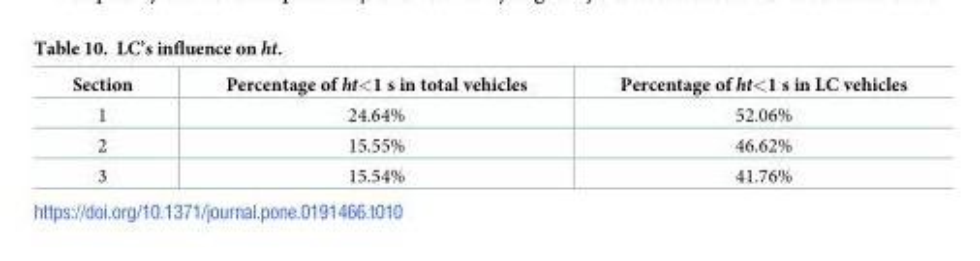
<table><thead><tr><td>Section</td><td>Percentage of ht&lt;1 s in total vehicles</td><td>Percentage of ht&lt;1 s in LC vehicles</td></tr></thead><tbody><tr><td>1</td><td>24.64%</td><td>52.06%</td></tr><tr><td>2</td><td>15.55%</td><td>46.62%</td></tr><tr><td>3</td><td>15.54%</td><td>41.76%</td></tr></tbody></table>